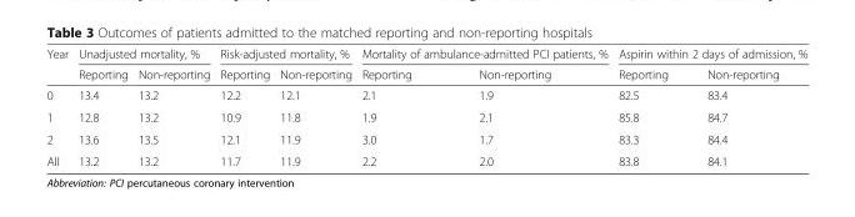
<table><thead><tr><td rowspan="2">Year</td><td colspan="2">Unadjusted mortality, %</td><td colspan="2">Risk-adjusted mortality, %</td><td colspan="2">Mortality of ambulance-admitted PCI patients, %</td><td colspan="2">Aspirin within 2 days of admission, %</td></tr><tr><td>Reporting</td><td>Non-reporting</td><td>Reporting</td><td>Non-reporting</td><td>Reporting</td><td>Non-reporting</td><td>Reporting</td><td>Non-reporting</td></tr></thead><tbody><tr><td>0</td><td>13.4</td><td>13.2</td><td>12.2</td><td>12.1</td><td>2.1</td><td>1.9</td><td>82.5</td><td>83.4</td></tr><tr><td>1</td><td>12.8</td><td>13.2</td><td>10.9</td><td>11.8</td><td>1.9</td><td>2.1</td><td>85.8</td><td>84.7</td></tr><tr><td>2</td><td>13.6</td><td>13.5</td><td>12.1</td><td>11.9</td><td>3.0</td><td>1.7</td><td>83.3</td><td>84.4</td></tr><tr><td>All</td><td>13.2</td><td>13.2</td><td>11.7</td><td>11.9</td><td>2.2</td><td>2.0</td><td>83.8</td><td>84.1</td></tr></tbody></table>